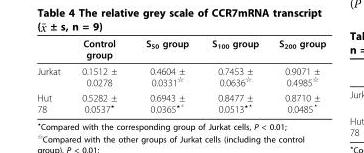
<table><thead><tr><td></td><td>Control group</td><td>S<sub>50</sub> group</td><td>S<sub>100</sub> group</td><td>S<sub>200</sub> group</td></tr></thead><tbody><tr><td>Jurkat</td><td>0.1512 ± 0.0278</td><td>0.4604 ± 0.0331<sup>✩</sup></td><td>0.7453 ± 0.0636<sup>✩</sup></td><td>0.9071 ± 0.4985<sup>✩</sup></td></tr><tr><td>Hut 78</td><td>0.5282 ± 0.0537<sup>⋆</sup></td><td>0.6943 ± 0.0365<sup>⋆▵</sup></td><td>0.8477 ± 0.0513<sup>⋆▴</sup></td><td>0.8710 ± 0.0485<sup>▴</sup></td></tr></tbody></table>